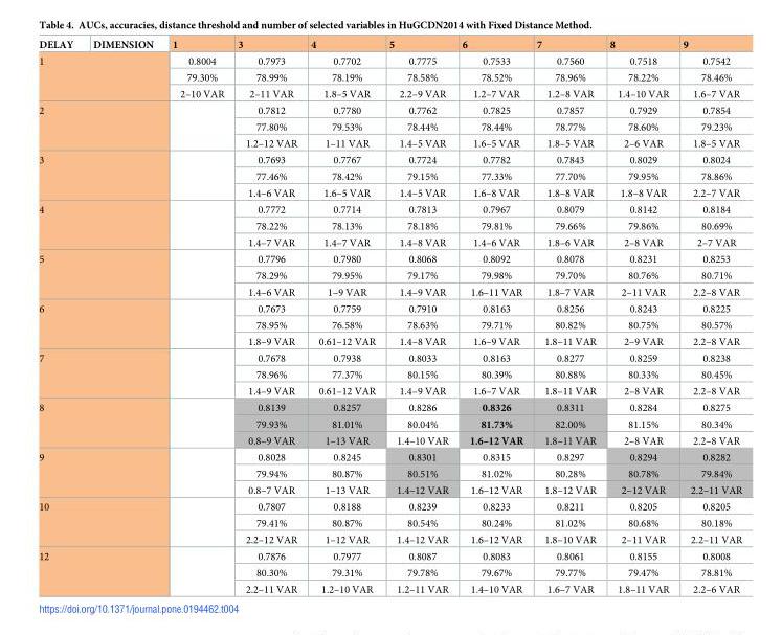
<table><thead><tr><td>DELAY</td><td>DIMENSION</td><td>1</td><td>3</td><td>4</td><td>5</td><td>6</td><td>7</td><td>8</td><td>9</td></tr></thead><tbody><tr><td rowspan="3" colspan="2">1</td><td>0.8004</td><td>0.7973</td><td>0.7702</td><td>0.7775</td><td>0.7533</td><td>0.7560</td><td>0.7518</td><td>0.7542</td></tr><tr><td>79.30%</td><td>78.99%</td><td>78.19%</td><td>78.58%</td><td>78.52%</td><td>78.96%</td><td>78.22%</td><td>78.46%</td></tr><tr><td>2–10 VAR</td><td>2–11 VAR</td><td>1.8–5 VAR</td><td>2.2–9 VAR</td><td>1.2–7 VAR</td><td>1.2–8 VAR</td><td>1.4–10 VAR</td><td>1.6–7 VAR</td></tr><tr><td rowspan="3" colspan="2">2</td><td rowspan="3"></td><td>0.7812</td><td>0.7780</td><td>0.7762</td><td>0.7825</td><td>0.7857</td><td>0.7929</td><td>0.7854</td></tr><tr><td>77.80%</td><td>79.53%</td><td>78.44%</td><td>78.44%</td><td>78.77%</td><td>78.60%</td><td>79.23%</td></tr><tr><td>1.2–12 VAR</td><td>1–11 VAR</td><td>1.4–5 VAR</td><td>1.6–5 VAR</td><td>1.8–5 VAR</td><td>2–6 VAR</td><td>1.8–5 VAR</td></tr><tr><td rowspan="3" colspan="2">3</td><td rowspan="3"></td><td>0.7693</td><td>0.7767</td><td>0.7724</td><td>0.7782</td><td>0.7843</td><td>0.8029</td><td>0.8024</td></tr><tr><td>77.46%</td><td>78.42%</td><td>79.15%</td><td>77.33%</td><td>77.70%</td><td>79.95%</td><td>78.86%</td></tr><tr><td>1.4–6 VAR</td><td>1.6–5 VAR</td><td>1.4–5 VAR</td><td>1.6–8 VAR</td><td>1.8–8 VAR</td><td>1.8–8 VAR</td><td>2.2–7 VAR</td></tr><tr><td rowspan="3" colspan="2">4</td><td rowspan="3"></td><td>0.7772</td><td>0.7714</td><td>0.7813</td><td>0.7967</td><td>0.8079</td><td>0.8142</td><td>0.8184</td></tr><tr><td>78.22%</td><td>78.13%</td><td>78.18%</td><td>79.81%</td><td>79.66%</td><td>79.86%</td><td>80.69%</td></tr><tr><td>1.4–7 VAR</td><td>1.4–7 VAR</td><td>1.4–8 VAR</td><td>1.4–6 VAR</td><td>1.8–6 VAR</td><td>2–8 VAR</td><td>2–7 VAR</td></tr><tr><td rowspan="3" colspan="2">5</td><td rowspan="3"></td><td>0.7796</td><td>0.7980</td><td>0.8068</td><td>0.8092</td><td>0.8078</td><td>0.8231</td><td>0.8253</td></tr><tr><td>78.29%</td><td>79.95%</td><td>79.17%</td><td>79.98%</td><td>79.70%</td><td>80.76%</td><td>80.71%</td></tr><tr><td>1.4–6 VAR</td><td>1–9 VAR</td><td>1.4–9 VAR</td><td>1.6–11 VAR</td><td>1.8–7 VAR</td><td>2–11 VAR</td><td>2.2–8 VAR</td></tr><tr><td rowspan="3" colspan="2">6</td><td rowspan="3"></td><td>0.7673</td><td>0.7759</td><td>0.7910</td><td>0.8163</td><td>0.8256</td><td>0.8243</td><td>0.8225</td></tr><tr><td>78.95%</td><td>76.58%</td><td>78.63%</td><td>79.71%</td><td>80.82%</td><td>80.75%</td><td>80.57%</td></tr><tr><td>1.8–9 VAR</td><td>0.61–12 VAR</td><td>1.4–8 VAR</td><td>1.6–9 VAR</td><td>1.8–11 VAR</td><td>2–9 VAR</td><td>2.2–8 VAR</td></tr><tr><td rowspan="3" colspan="2">7</td><td rowspan="3"></td><td>0.7678</td><td>0.7938</td><td>0.8033</td><td>0.8163</td><td>0.8277</td><td>0.8259</td><td>0.8238</td></tr><tr><td>78.96%</td><td>77.37%</td><td>80.15%</td><td>80.39%</td><td>80.88%</td><td>80.33%</td><td>80.45%</td></tr><tr><td>1.4–9 VAR</td><td>0.61–12 VAR</td><td>1.4–9 VAR</td><td>1.6–7 VAR</td><td>1.8–11 VAR</td><td>2–8 VAR</td><td>2.2–8 VAR</td></tr><tr><td rowspan="3" colspan="2">8</td><td rowspan="3"></td><td>0.8139</td><td>0.8257</td><td>0.8286</td><td>0.8326</td><td>0.8311</td><td>0.8284</td><td>0.8275</td></tr><tr><td>79.93%</td><td>81.01%</td><td>80.04%</td><td>81.73%</td><td>82.00%</td><td>81.15%</td><td>80.34%</td></tr><tr><td>0.8–9 VAR</td><td>1–13 VAR</td><td>1.4–10 VAR</td><td>1.6–12 VAR</td><td>1.8–11 VAR</td><td>2–8 VAR</td><td>2.2–8 VAR</td></tr><tr><td rowspan="3" colspan="2">9</td><td rowspan="3"></td><td>0.8028</td><td>0.8245</td><td>0.8301</td><td>0.8315</td><td>0.8297</td><td>0.8294</td><td>0.8282</td></tr><tr><td>79.94%</td><td>80.87%</td><td>80.51%</td><td>81.02%</td><td>80.28%</td><td>80.78%</td><td>79.84%</td></tr><tr><td>0.8–7 VAR</td><td>1–13 VAR</td><td>1.4–12 VAR</td><td>1.6–12 VAR</td><td>1.8–12 VAR</td><td>2–12 VAR</td><td>2.2–11 VAR</td></tr><tr><td rowspan="3" colspan="2">10</td><td rowspan="3"></td><td>0.7807</td><td>0.8188</td><td>0.8239</td><td>0.8233</td><td>0.8211</td><td>0.8205</td><td>0.8205</td></tr><tr><td>79.41%</td><td>80.87%</td><td>80.54%</td><td>80.24%</td><td>81.02%</td><td>80.68%</td><td>80.18%</td></tr><tr><td>2.2–12 VAR</td><td>1–12 VAR</td><td>1.4–12 VAR</td><td>1.6–12 VAR</td><td>1.8–10 VAR</td><td>2–11 VAR</td><td>2.2–11 VAR</td></tr><tr><td rowspan="3" colspan="2">12</td><td rowspan="3"></td><td>0.7876</td><td>0.7977</td><td>0.8087</td><td>0.8083</td><td>0.8061</td><td>0.8155</td><td>0.8008</td></tr><tr><td>80.30%</td><td>79.31%</td><td>79.78%</td><td>79.67%</td><td>79.77%</td><td>79.47%</td><td>78.81%</td></tr><tr><td>2.2–11 VAR</td><td>1.2–10 VAR</td><td>1.2–11 VAR</td><td>1.4–10 VAR</td><td>1.6–7 VAR</td><td>1.8–11 VAR</td><td>2.2–6 VAR</td></tr></tbody></table>